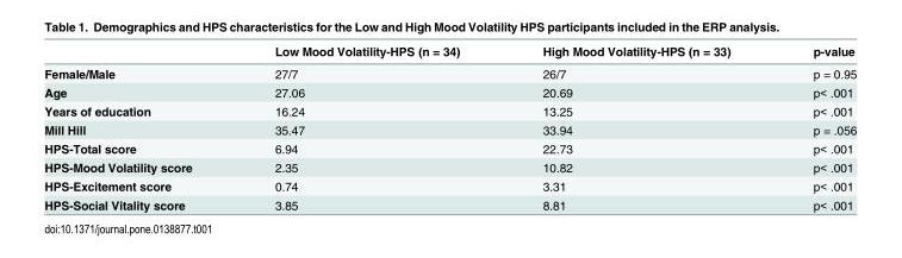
<table><thead><tr><td></td><td>Low Mood Volatility-HPS (n = 34)</td><td>High Mood Volatility-HPS (n = 33)</td><td>p-value</td></tr></thead><tbody><tr><td>Female/Male</td><td>27/7</td><td>26/7</td><td>p = 0.95</td></tr><tr><td>Age</td><td>27.06</td><td>20.69</td><td>p&lt; .001</td></tr><tr><td>Years of education</td><td>16.24</td><td>13.25</td><td>p&lt; .001</td></tr><tr><td>Mill Hill</td><td>35.47</td><td>33.94</td><td>p = .056</td></tr><tr><td>HPS-Total score</td><td>6.94</td><td>22.73</td><td>p&lt; .001</td></tr><tr><td>HPS-Mood Volatility score</td><td>2.35</td><td>10.82</td><td>p&lt; .001</td></tr><tr><td>HPS-Excitement score</td><td>0.74</td><td>3.31</td><td>p&lt; .001</td></tr><tr><td>HPS-Social Vitality score</td><td>3.85</td><td>8.81</td><td>p&lt; .001</td></tr></tbody></table>